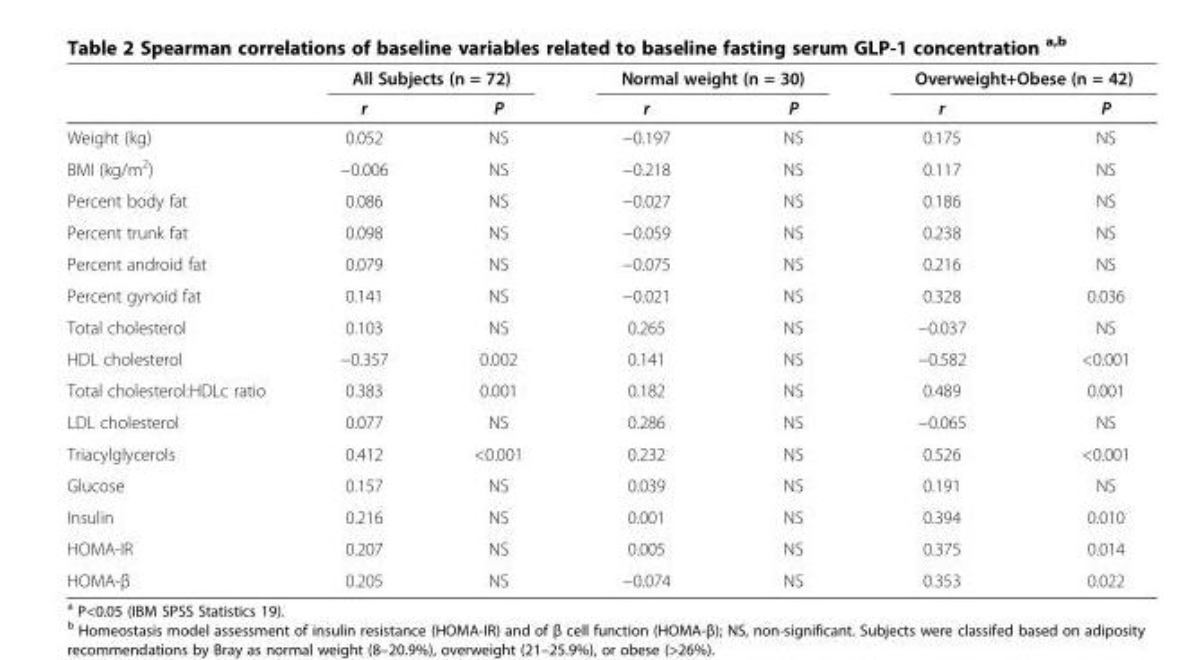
<table><thead><tr><td rowspan="2"></td><td colspan="2">All Subjects (n = 72)</td><td colspan="2">Normal weight (n = 30)</td><td colspan="2">Overweight+Obese (n = 42)</td></tr><tr><td>r</td><td>P</td><td>r</td><td>P</td><td>r</td><td>P</td></tr></thead><tbody><tr><td>Weight (kg)</td><td>0.052</td><td>NS</td><td>−0.197</td><td>NS</td><td>0.175</td><td>NS</td></tr><tr><td>BMI (kg/m<sup>2</sup>)</td><td>−0.006</td><td>NS</td><td>−0.218</td><td>NS</td><td>0.117</td><td>NS</td></tr><tr><td>Percent body fat</td><td>0.086</td><td>NS</td><td>−0.027</td><td>NS</td><td>0.186</td><td>NS</td></tr><tr><td>Percent trunk fat</td><td>0.098</td><td>NS</td><td>−0.059</td><td>NS</td><td>0.238</td><td>NS</td></tr><tr><td>Percent android fat</td><td>0.079</td><td>NS</td><td>−0.075</td><td>NS</td><td>0.216</td><td>NS</td></tr><tr><td>Percent gynoid fat</td><td>0.141</td><td>NS</td><td>−0.021</td><td>NS</td><td>0.328</td><td>0.036</td></tr><tr><td>Total cholesterol</td><td>0.103</td><td>NS</td><td>0.265</td><td>NS</td><td>−0.037</td><td>NS</td></tr><tr><td>HDL cholesterol</td><td>−0.357</td><td>0.002</td><td>0.141</td><td>NS</td><td>−0.582</td><td>&lt;0.001</td></tr><tr><td>Total cholesterol:HDLc ratio</td><td>0.383</td><td>0.001</td><td>0.182</td><td>NS</td><td>0.489</td><td>0.001</td></tr><tr><td>LDL cholesterol</td><td>0.077</td><td>NS</td><td>0.286</td><td>NS</td><td>−0.065</td><td>NS</td></tr><tr><td>Triacylglycerols</td><td>0.412</td><td>&lt;0.001</td><td>0.232</td><td>NS</td><td>0.526</td><td>&lt;0.001</td></tr><tr><td>Glucose</td><td>0.157</td><td>NS</td><td>0.039</td><td>NS</td><td>0.191</td><td>NS</td></tr><tr><td>Insulin</td><td>0.216</td><td>NS</td><td>0.001</td><td>NS</td><td>0.394</td><td>0.010</td></tr><tr><td>HOMA-IR</td><td>0.207</td><td>NS</td><td>0.005</td><td>NS</td><td>0.375</td><td>0.014</td></tr><tr><td>HOMA-β</td><td>0.205</td><td>NS</td><td>−0.074</td><td>NS</td><td>0.353</td><td>0.022</td></tr></tbody></table>